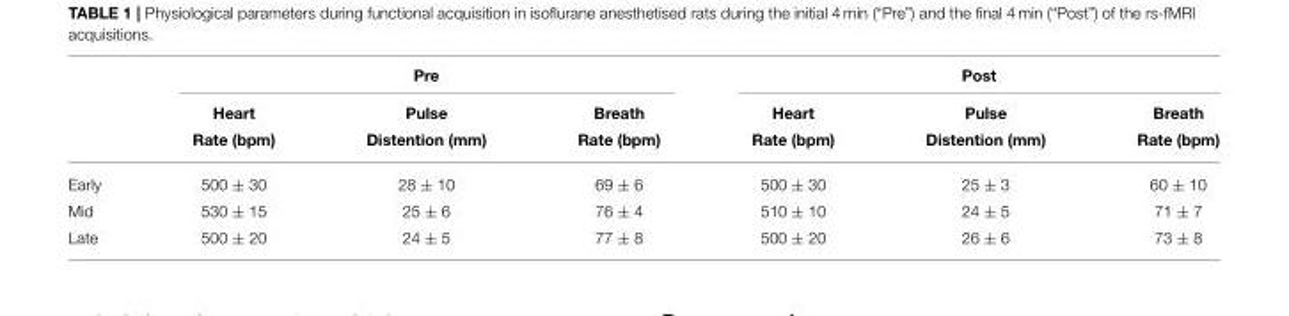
<table><thead><tr><td rowspan="3"></td><td colspan="3">Pre</td><td colspan="3">Post</td></tr><tr><td rowspan="2">Heart Rate (bpm)</td><td rowspan="2">Pulse Distention (mm)</td><td rowspan="2">Breath Rate (bpm)</td><td rowspan="2">Heart Rate (bpm)</td><td rowspan="2">Pulse Distention (mm)</td><td rowspan="2">Breath Rate (bpm)</td></tr><tr></tr></thead><tbody><tr><td>Early</td><td>500 ± 30</td><td>28 ± 10</td><td>69 ± 6</td><td>500 ± 30</td><td>25 ± 3</td><td>60 ± 10</td></tr><tr><td>Mid</td><td>530 ± 15</td><td>25 ± 6</td><td>76 ± 4</td><td>510 ± 10</td><td>24 ± 5</td><td>71 ± 7</td></tr><tr><td>Late</td><td>500 ± 20</td><td>24 ± 5</td><td>77 ± 8</td><td>500 ± 20</td><td>26 ± 6</td><td>73 ± 8</td></tr></tbody></table>